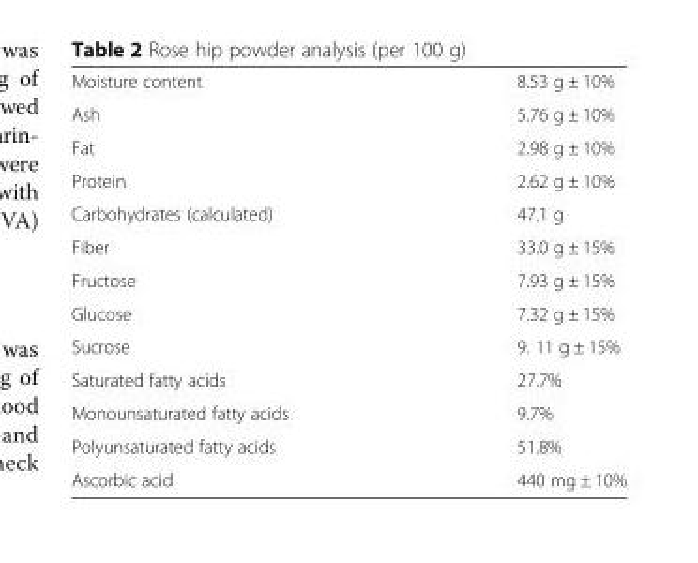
<table><tbody><tr><td>Moisture content</td><td>8.53 g ± 10%</td></tr><tr><td>Ash</td><td>5.76 g ± 10%</td></tr><tr><td>Fat</td><td>2.98 g ± 10%</td></tr><tr><td>Protein</td><td>2.62 g ± 10%</td></tr><tr><td>Carbohydrates (calculated)</td><td>47.1 g</td></tr><tr><td>Fiber</td><td>33.0 g ± 15%</td></tr><tr><td>Fructose</td><td>7.93 g ± 15%</td></tr><tr><td>Glucose</td><td>7.32 g ± 15%</td></tr><tr><td>Sucrose</td><td>9. 11 g ± 15%</td></tr><tr><td>Saturated fatty acids</td><td>27.7%</td></tr><tr><td>Monounsaturated fatty acids</td><td>9.7%</td></tr><tr><td>Polyunsaturated fatty acids</td><td>51.8%</td></tr><tr><td>Ascorbic acid</td><td>440 mg ± 10%</td></tr></tbody></table>